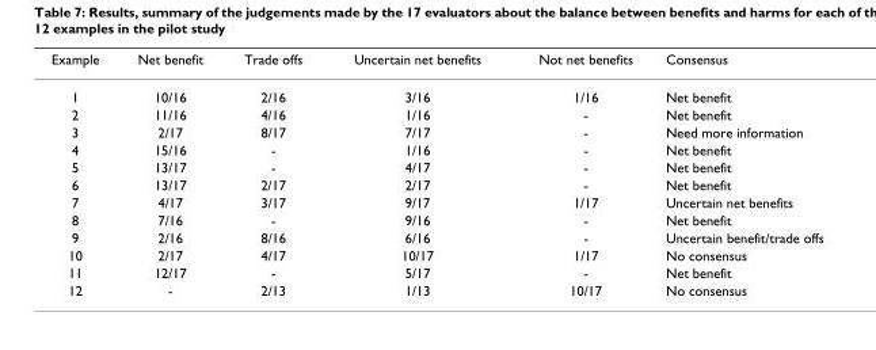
<table><thead><tr><td>Example</td><td>Net benefit</td><td>Trade offs</td><td>Uncertain net benefits</td><td>Not net benefits</td><td>Consensus</td></tr></thead><tbody><tr><td>1</td><td>10/16</td><td>2/16</td><td>3/16</td><td>1/16</td><td>Net benefit</td></tr><tr><td>2</td><td>11/16</td><td>4/16</td><td>1/16</td><td>-</td><td>Net benefit</td></tr><tr><td>3</td><td>2/17</td><td>8/17</td><td>7/17</td><td>-</td><td>Need more information</td></tr><tr><td>4</td><td>15/16</td><td>-</td><td>1/16</td><td>-</td><td>Net benefit</td></tr><tr><td>5</td><td>13/17</td><td>-</td><td>4/17</td><td>-</td><td>Net benefit</td></tr><tr><td>6</td><td>13/17</td><td>2/17</td><td>2/17</td><td>-</td><td>Net benefit</td></tr><tr><td>7</td><td>4/17</td><td>3/17</td><td>9/17</td><td>1/17</td><td>Uncertain net benefits</td></tr><tr><td>8</td><td>7/16</td><td>-</td><td>9/16</td><td>-</td><td>Net benefit</td></tr><tr><td>9</td><td>2/16</td><td>8/16</td><td>6/16</td><td>-</td><td>Uncertain benefit/trade offs</td></tr><tr><td>10</td><td>2/17</td><td>4/17</td><td>10/17</td><td>1/17</td><td>No consensus</td></tr><tr><td>11</td><td>12/17</td><td>-</td><td>5/17</td><td>-</td><td>Net benefit</td></tr><tr><td>12</td><td>-</td><td>2/13</td><td>1/13</td><td>10/17</td><td>No consensus</td></tr></tbody></table>